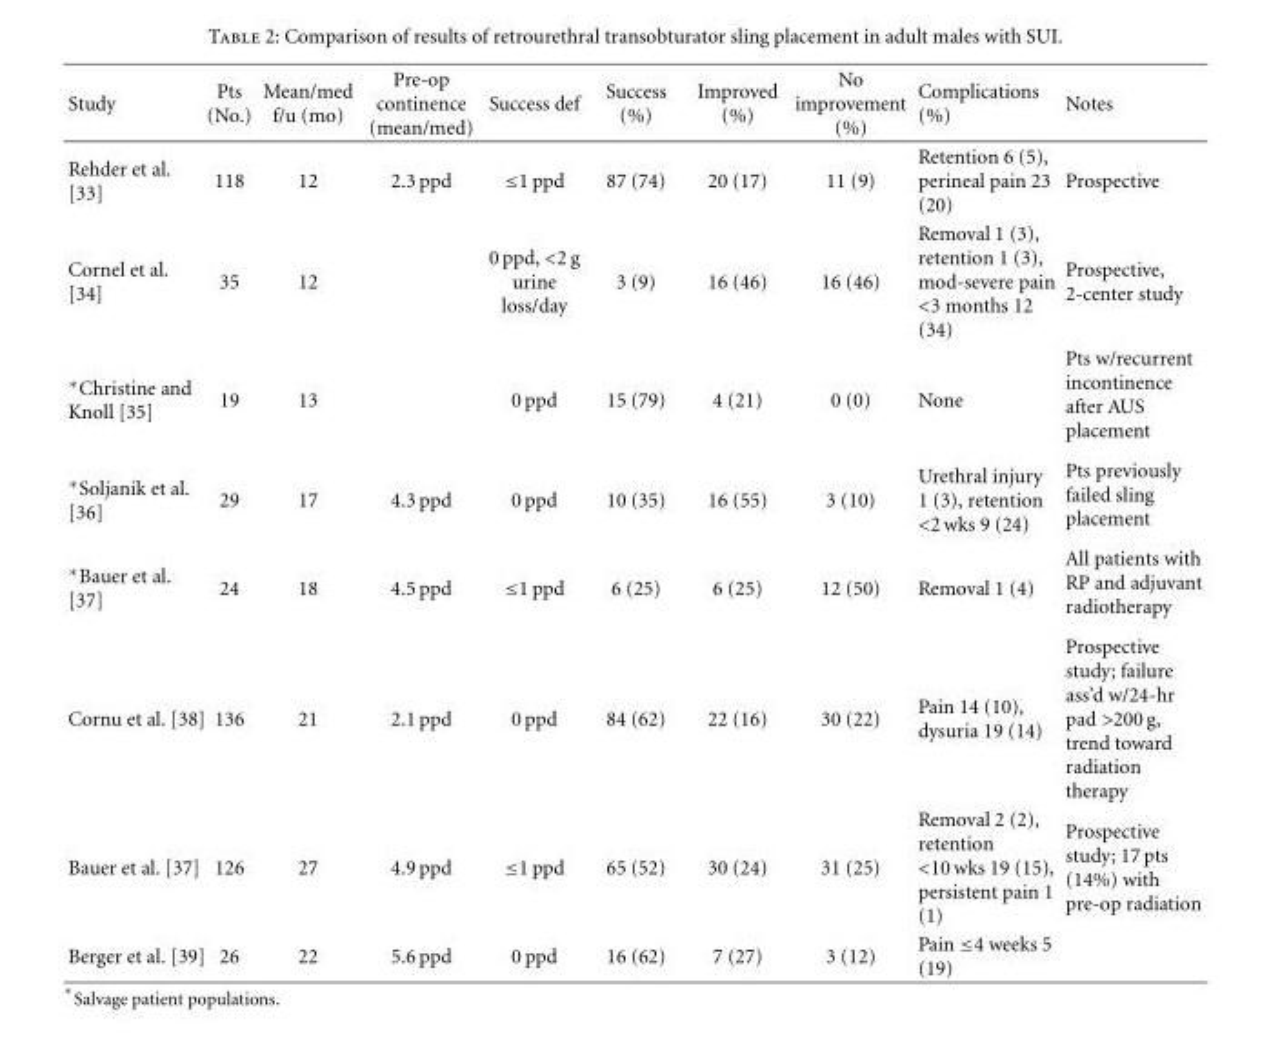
<table><thead><tr><td>Study</td><td>Pts (No.)</td><td>Mean/med f/u (mo)</td><td>Pre-op continence (mean/med)</td><td>Success def</td><td>Success (%)</td><td>Improved (%)</td><td>No improvement (%)</td><td>Complications (%)</td><td>Notes</td></tr></thead><tbody><tr><td>Rehder et al. [33]</td><td>118</td><td>12</td><td>2.3 ppd</td><td>≤1 ppd</td><td>87 (74)</td><td>20 (17)</td><td>11 (9)</td><td>Retention 6 (5), perineal pain 23 (20)</td><td>Prospective</td></tr><tr><td>Cornel et al. [34]</td><td>35</td><td>12</td><td></td><td>0 ppd, &lt;2 g urine loss/day</td><td>3 (9)</td><td>16 (46)</td><td>16 (46)</td><td>Removal 1 (3), retention 1 (3), mod-severe pain &lt;3 months 12 (34)</td><td>Prospective, 2-center study</td></tr><tr><td>∗Christine and Knoll [35]</td><td>19</td><td>13</td><td></td><td>0 ppd</td><td>15 (79)</td><td>4 (21)</td><td>0 (0)</td><td>None</td><td>Pts w/recurrent incontinence after AUS placement</td></tr><tr><td>∗Soljanik et al. [36]</td><td>29</td><td>17</td><td>4.3 ppd</td><td>0 ppd</td><td>10 (35)</td><td>16 (55)</td><td>3 (10)</td><td>Urethral injury 1 (3), retention &lt;2 wks 9 (24)</td><td>Pts previously failed sling placement</td></tr><tr><td>∗Bauer et al. [37]</td><td>24</td><td>18</td><td>4.5 ppd</td><td>≤1 ppd</td><td>6 (25)</td><td>6 (25)</td><td>12 (50)</td><td>Removal 1 (4)</td><td>All patients with RP and adjuvant radiotherapy</td></tr><tr><td>Cornu et al. [38]</td><td>136</td><td>21</td><td>2.1 ppd</td><td>0 ppd</td><td>84 (62)</td><td>22 (16)</td><td>30 (22)</td><td>Pain 14 (10), dysuria 19 (14)</td><td>Prospective study; failure ass’d w/24-hr pad &gt;200 g, trend toward radiation therapy</td></tr><tr><td>Bauer et al. [37]</td><td>126</td><td>27</td><td>4.9 ppd</td><td>≤1 ppd</td><td>65 (52)</td><td>30 (24)</td><td>31 (25)</td><td>Removal 2 (2), retention &lt;10 wks 19 (15), persistent pain 1 (1)</td><td>Prospective study; 17 pts (14%) with pre-op radiation</td></tr><tr><td>Berger et al. [39]</td><td>26</td><td>22</td><td>5.6 ppd</td><td>0 ppd</td><td>16 (62)</td><td>7 (27)</td><td>3 (12)</td><td>Pain ≤4 weeks 5 (19)</td><td></td></tr></tbody></table>